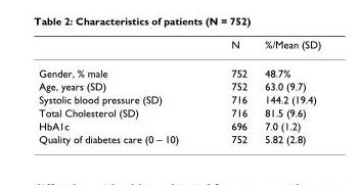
<table><thead><tr><td></td><td>N</td><td>%/Mean (SD)</td></tr></thead><tbody><tr><td>Gender, % male</td><td>752</td><td>48.7%</td></tr><tr><td>Age, years (SD)</td><td>752</td><td>63.0 (9.7)</td></tr><tr><td>Systolic blood pressure (SD)</td><td>716</td><td>144.2 (19.4)</td></tr><tr><td>Total Cholesterol (SD)</td><td>716</td><td>81.5 (9.6)</td></tr><tr><td>HbA1c</td><td>696</td><td>7.0 (1.2)</td></tr><tr><td>Quality of diabetes care (0 – 10)</td><td>752</td><td>5.82 (2.8)</td></tr></tbody></table>